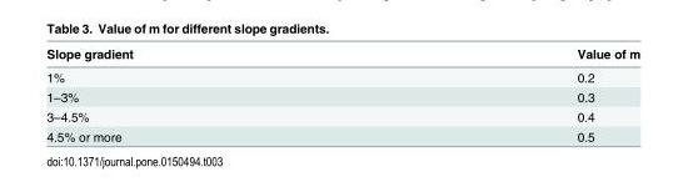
<table><thead><tr><td>Slope gradient</td><td>Value of m</td></tr></thead><tbody><tr><td>1%</td><td>0.2</td></tr><tr><td>1–3%</td><td>0.3</td></tr><tr><td>3–4.5%</td><td>0.4</td></tr><tr><td>4.5% or more</td><td>0.5</td></tr></tbody></table>